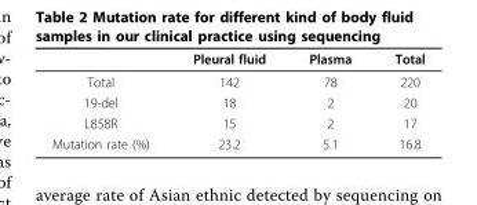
<table><thead><tr><td></td><td>Pleural fluid</td><td>Plasma</td><td>Total</td></tr></thead><tbody><tr><td>Total</td><td>142</td><td>78</td><td>220</td></tr><tr><td>19-del</td><td>18</td><td>2</td><td>20</td></tr><tr><td>L858R</td><td>15</td><td>2</td><td>17</td></tr><tr><td>Mutation rate (%)</td><td>23.2</td><td>5.1</td><td>16.8</td></tr></tbody></table>